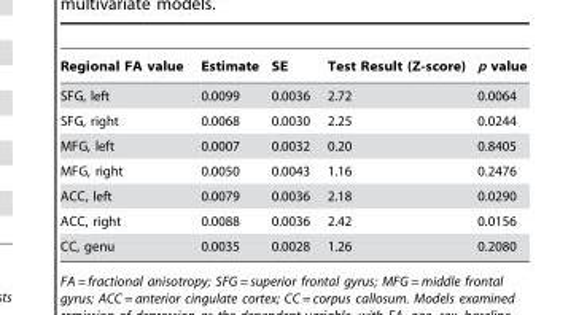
<table><thead><tr><td>Regional FA value</td><td>Estimate</td><td>SE</td><td>Test Result (Z-score)</td><td>p value</td></tr></thead><tbody><tr><td>SFG, left</td><td>0.0099</td><td>0.0036</td><td>2.72</td><td>0.0064</td></tr><tr><td>SFG, right</td><td>0.0068</td><td>0.0030</td><td>2.25</td><td>0.0244</td></tr><tr><td>MFG, left</td><td>0.0007</td><td>0.0032</td><td>0.20</td><td>0.8405</td></tr><tr><td>MFG, right</td><td>0.0050</td><td>0.0043</td><td>1.16</td><td>0.2476</td></tr><tr><td>ACC, left</td><td>0.0079</td><td>0.0036</td><td>2.18</td><td>0.0290</td></tr><tr><td>ACC, right</td><td>0.0088</td><td>0.0036</td><td>2.42</td><td>0.0156</td></tr><tr><td>CC, genu</td><td>0.0035</td><td>0.0028</td><td>1.26</td><td>0.2080</td></tr></tbody></table>